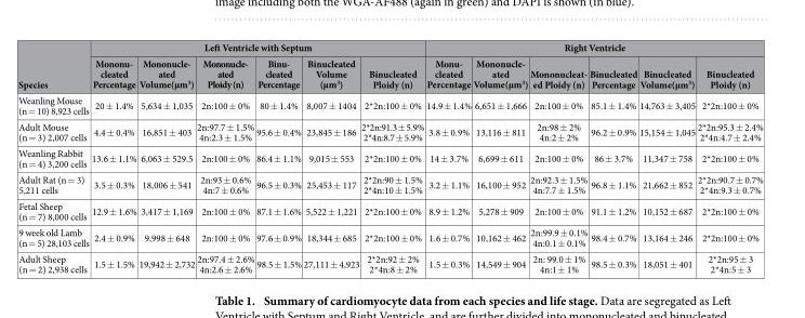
<table><thead><tr><td rowspan="2">Species</td><td colspan="6">Left Ventricle with Septum</td><td colspan="6">Right Ventricle</td></tr><tr><td>Mononu- cleated Percentage</td><td>Mononucle- ated Volume(µm3)</td><td>Mononucle- ated Ploidy (n)</td><td>Binu- cleated Percentage</td><td>Binucleated Volume (µm<sup>3</sup>)</td><td>Binucleated Ploidy (n)</td><td>Monu- cleated Percentage</td><td>Mononucle- ated Volume(µm3)</td><td>Mononucleat- ed Ploidy (n)</td><td>Binucleated Percentage</td><td>Binucleated Volume(µm<sup>3</sup>)</td><td>Binucleated Ploidy (n)</td></tr></thead><tbody><tr><td>Weanling Mouse (n = 10) 8,923 cells</td><td>20 ± 1.4%</td><td>5,634 ± 1,035</td><td>2n:100 ± 0%</td><td>80 ± 1.4%</td><td>8,007 ± 1404</td><td>2*2n:100 ± 0%</td><td>14.9 ± 1.4%</td><td>6,651 ± 1,666</td><td>2n:100 ± 0%</td><td>85.1 ± 1.4%</td><td>14,763 ± 3,405</td><td>2*2n:100 ± 0%</td></tr><tr><td>Adult Mouse (n = 3) 2,007 cells</td><td>4.4 ± 0.4%</td><td>16,851 ± 403</td><td>2n:97.7 ± 1.5% 4n:2.3 ± 1.5%</td><td>95.6 ± 0.4%</td><td>23,845 ± 186</td><td>2*2n:91.3 ± 5.9% 2*4n:8.7 ± 5.9%</td><td>3.8 ± 0.9%</td><td>13,116 ± 811</td><td>2n:98 ± 2% 4n:2 ± 2%</td><td>96.2 ± 0.9%</td><td>15,154 ± 1,045</td><td>2*2n:95.3 ± 2.4% 2*4n:4.7 ± 2.4%</td></tr><tr><td>Weanling Rabbit (n = 4) 3,200 cells</td><td>13.6 ± 1.1%</td><td>6,063 ± 529.5</td><td>2n:100 ± 0%</td><td>86.4 ± 1.1%</td><td>9,015 ± 553</td><td>2*2n:100 ± 0%</td><td>14 ± 3.7%</td><td>6,699 ± 611</td><td>2n:100 ± 0%</td><td>86 ± 3.7%</td><td>11,347 ± 758</td><td>2*2n:100 ± 0%</td></tr><tr><td>Adult Rat (n = 3) 5,211 cells</td><td>3.5 ± 0.3%</td><td>18,006 ± 541</td><td>2n:93 ± 0.6% 4n:7 ± 0.6%</td><td>96.5 ± 0.3%</td><td>25,453 ± 117</td><td>2*2n:90 ± 1.5% 2*4n:10 ± 1.5%</td><td>3.2 ± 1.1%</td><td>16,100 ± 952</td><td>2n:92.3 ± 1.5% 4n:7.7 ± 1.5%</td><td>96.8 ± 1.1%</td><td>21,662 ± 852</td><td>2*2n:90.7 ± 0.7% 2*4n:9.3 ± 0.7%</td></tr><tr><td>Fetal Sheep (n = 7) 8,000 cells</td><td>12.9 ± 1.6%</td><td>3,417 ± 1,169</td><td>2n:100 ± 0%</td><td>87.1 ± 1.6%</td><td>5,522 ± 1,221</td><td>2*2n:100 ± 0%</td><td>8.9 ± 1.2%</td><td>5,278 ± 909</td><td>2n:100 ± 0%</td><td>91.1 ± 1.2%</td><td>10,152 ± 687</td><td>2*2n:100 ± 0%</td></tr><tr><td>9 week old Lamb (n = 5) 28,103 cells</td><td>2.4 ± 0.9%</td><td>9,998 ± 648</td><td>2n:100 ± 0%</td><td>97.6 ± 0.9%</td><td>18,344 ± 685</td><td>2*2n:100 ± 0%</td><td>1.6 ± 0.7%</td><td>10,162 ± 462</td><td>2n:99.9 ± 0.1% 4n:0.1 ± 0.1%</td><td>98.4 ± 0.7%</td><td>13,164 ± 246</td><td>2*2n:100 ± 0%</td></tr><tr><td>Adult Sheep (n = 2) 2,938 cells</td><td>1.5 ± 1.5%</td><td>19,942 ± 2,732</td><td>2n:97.4 ± 2.6% 4n:2.6 ± 2.6%</td><td>98.5 ± 1.5%</td><td>27,111 ± 4,923</td><td>2*2n:92 ± 2% 2*4n:8 ± 2%</td><td>1.5 ± 0.3%</td><td>14,549 ± 904</td><td>2n: 99.0 ± 1% 4n:1 ± 1%</td><td>98.5 ± 0.3%</td><td>18,051 ± 401</td><td>2*2n:95 ± 3 2*4n:5 ± 3</td></tr></tbody></table>